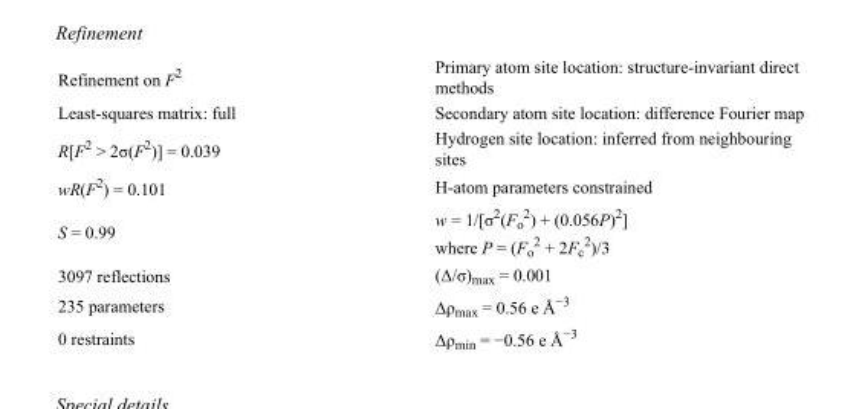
<table><tbody><tr><td>Refinement on F<sup>2</sup></td><td>Primary atom site location: structure-invariant direct methods</td></tr><tr><td>Least-squares matrix: full</td><td>Secondary atom site location: difference Fourier map</td></tr><tr><td>R[F<sup>2</sup> &gt; 2σ(F<sup>2</sup>)] = 0.039</td><td>Hydrogen site location: inferred from neighbouring sites</td></tr><tr><td>wR(F<sup>2</sup>) = 0.101</td><td>H-atom parameters constrained</td></tr><tr><td>S = 0.99</td><td>w = 1/[σ<sup>2</sup>(F<sub>o</sub> <sup>2</sup>) + (0.056P)<sup>2</sup>] where P = (F<sub>o</sub> <sup>2</sup> + 2F<sub>c</sub> <sup>2</sup>)/3</td></tr><tr><td>3097 reflections</td><td>(Δ/σ)<sub>max</sub> = 0.001</td></tr><tr><td>235 parameters</td><td>Δρ<sub>max</sub> = 0.56 e Å<sup>−3</sup></td></tr><tr><td>0 restraints</td><td>Δρ<sub>min</sub> = −0.56 e Å<sup>−3</sup></td></tr></tbody></table>